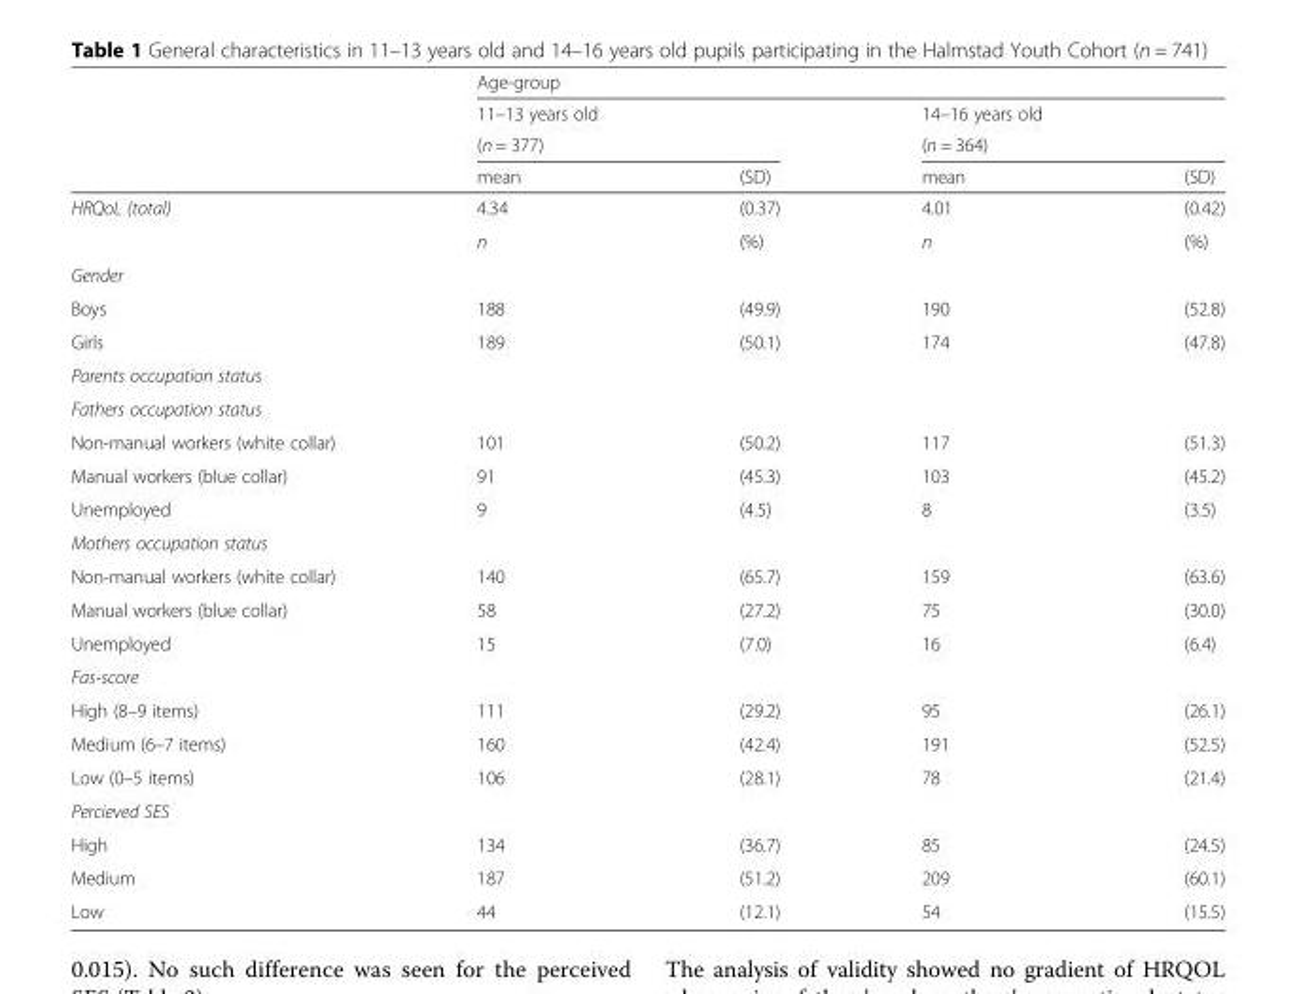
<table><thead><tr><td rowspan="4"></td><td colspan="4">Age-group</td></tr><tr><td>11–13 years old</td><td></td><td>14–16 years old</td><td></td></tr><tr><td colspan="2">(n = 377)</td><td colspan="2">(n = 364)</td></tr><tr><td>mean</td><td>(SD)</td><td>mean</td><td>(SD)</td></tr></thead><tbody><tr><td rowspan="2">HRQoL (total)</td><td>4.34</td><td>(0.37)</td><td>4.01</td><td>(0.42)</td></tr><tr><td>n</td><td>(%)</td><td>n</td><td>(%)</td></tr><tr><td colspan="5">Gender</td></tr><tr><td>Boys</td><td>188</td><td>(49.9)</td><td>190</td><td>(52.8)</td></tr><tr><td>Girls</td><td>189</td><td>(50.1)</td><td>174</td><td>(47.8)</td></tr><tr><td colspan="5">Parents occupation status</td></tr><tr><td colspan="5">Fathers occupation status</td></tr><tr><td>Non-manual workers (white collar)</td><td>101</td><td>(50.2)</td><td>117</td><td>(51.3)</td></tr><tr><td>Manual workers (blue collar)</td><td>91</td><td>(45.3)</td><td>103</td><td>(45.2)</td></tr><tr><td>Unemployed</td><td>9</td><td>(4.5)</td><td>8</td><td>(3.5)</td></tr><tr><td colspan="5">Mothers occupation status</td></tr><tr><td>Non-manual workers (white collar)</td><td>140</td><td>(65.7)</td><td>159</td><td>(63.6)</td></tr><tr><td>Manual workers (blue collar)</td><td>58</td><td>(27.2)</td><td>75</td><td>(30.0)</td></tr><tr><td>Unemployed</td><td>15</td><td>(7.0)</td><td>16</td><td>(6.4)</td></tr><tr><td colspan="5">Fas-score</td></tr><tr><td>High (8–9 items)</td><td>111</td><td>(29.2)</td><td>95</td><td>(26.1)</td></tr><tr><td>Medium (6–7 items)</td><td>160</td><td>(42.4)</td><td>191</td><td>(52.5)</td></tr><tr><td>Low (0–5 items)</td><td>106</td><td>(28.1)</td><td>78</td><td>(21.4)</td></tr><tr><td colspan="5">Percieved SES</td></tr><tr><td>High</td><td>134</td><td>(36.7)</td><td>85</td><td>(24.5)</td></tr><tr><td>Medium</td><td>187</td><td>(51.2)</td><td>209</td><td>(60.1)</td></tr><tr><td>Low</td><td>44</td><td>(12.1)</td><td>54</td><td>(15.5)</td></tr></tbody></table>